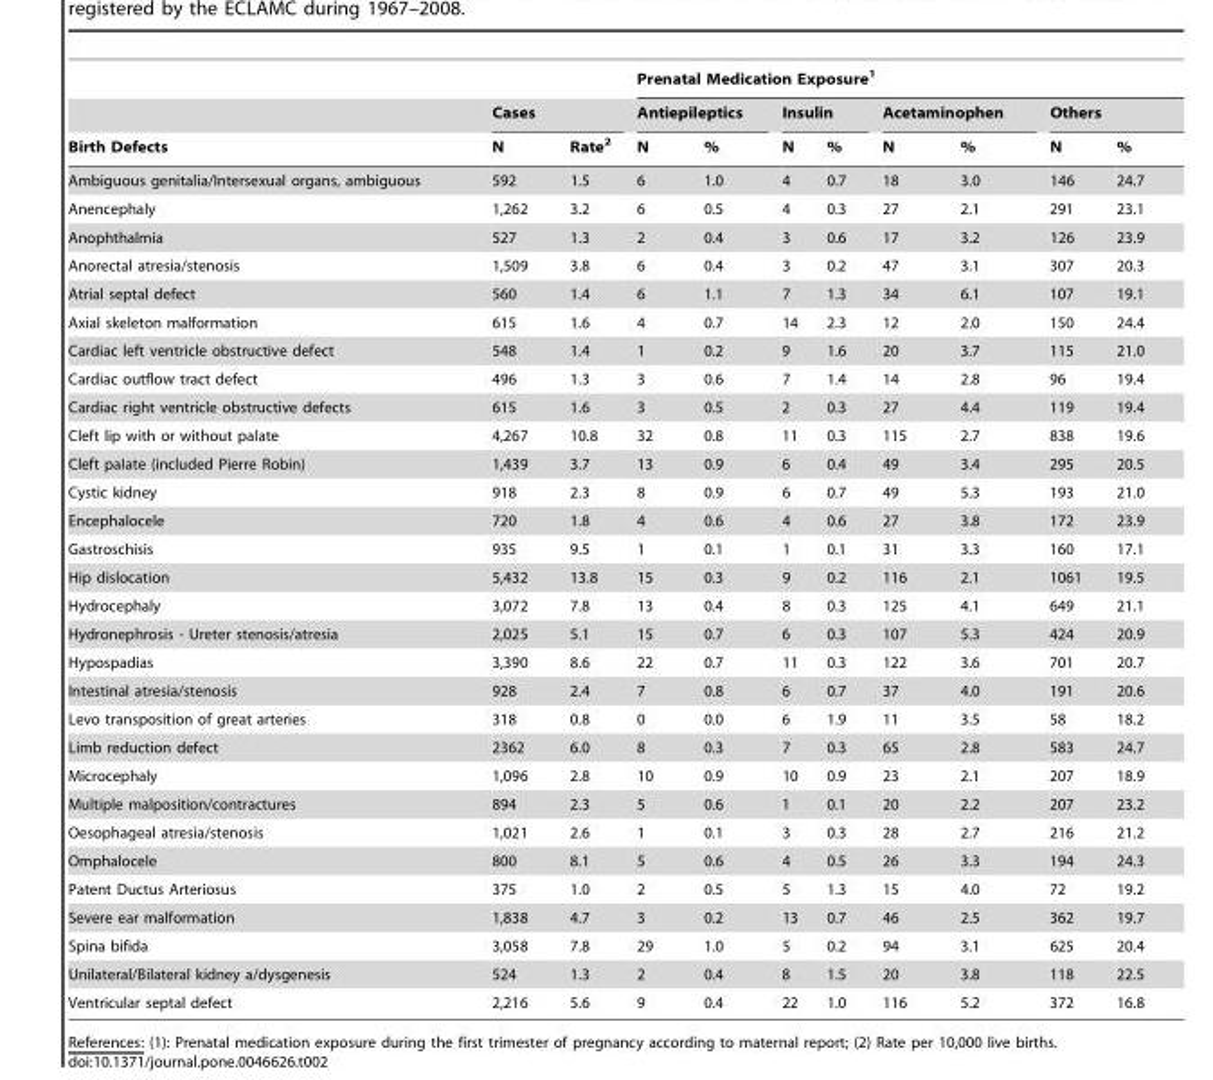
<table><thead><tr><td rowspan="3">Birth Defects</td><td></td><td></td><td colspan="8">Prenatal Medication Exposure<sup>1</sup></td></tr><tr><td colspan="2">Cases</td><td colspan="2">Antiepileptics</td><td colspan="2">Insulin</td><td colspan="2">Acetaminophen</td><td colspan="2">Others</td></tr><tr><td>N</td><td>Rate<sup>2</sup></td><td>N</td><td>%</td><td>N</td><td>%</td><td>N</td><td>%</td><td>N</td><td>%</td></tr></thead><tbody><tr><td>Ambiguous genitalia/Intersexual organs, ambiguous</td><td>592</td><td>1.5</td><td>6</td><td>1.0</td><td>4</td><td>0.7</td><td>18</td><td>3.0</td><td>146</td><td>24.7</td></tr><tr><td>Anencephaly</td><td>1,262</td><td>3.2</td><td>6</td><td>0.5</td><td>4</td><td>0.3</td><td>27</td><td>2.1</td><td>291</td><td>23.1</td></tr><tr><td>Anophthalmia</td><td>527</td><td>1.3</td><td>2</td><td>0.4</td><td>3</td><td>0.6</td><td>17</td><td>3.2</td><td>126</td><td>23.9</td></tr><tr><td>Anorectal atresia/stenosis</td><td>1,509</td><td>3.8</td><td>6</td><td>0.4</td><td>3</td><td>0.2</td><td>47</td><td>3.1</td><td>307</td><td>20.3</td></tr><tr><td>Atrial septal defect</td><td>560</td><td>1.4</td><td>6</td><td>1.1</td><td>7</td><td>1.3</td><td>34</td><td>6.1</td><td>107</td><td>19.1</td></tr><tr><td>Axial skeleton malformation</td><td>615</td><td>1.6</td><td>4</td><td>0.7</td><td>14</td><td>2.3</td><td>12</td><td>2.0</td><td>150</td><td>24.4</td></tr><tr><td>Cardiac left ventricle obstructive defect</td><td>548</td><td>1.4</td><td>1</td><td>0.2</td><td>9</td><td>1.6</td><td>20</td><td>3.7</td><td>115</td><td>21.0</td></tr><tr><td>Cardiac outflow tract defect</td><td>496</td><td>1.3</td><td>3</td><td>0.6</td><td>7</td><td>1.4</td><td>14</td><td>2.8</td><td>96</td><td>19.4</td></tr><tr><td>Cardiac right ventricle obstructive defects</td><td>615</td><td>1.6</td><td>3</td><td>0.5</td><td>2</td><td>0.3</td><td>27</td><td>4.4</td><td>119</td><td>19.4</td></tr><tr><td>Cleft lip with or without paIate</td><td>4,267</td><td>10.8</td><td>32</td><td>0.8</td><td>11</td><td>0.3</td><td>115</td><td>2.7</td><td>838</td><td>19.6</td></tr><tr><td>Cleft paIate (included Pierre Robin)</td><td>1,439</td><td>3.7</td><td>13</td><td>0.9</td><td>6</td><td>0.4</td><td>49</td><td>3.4</td><td>295</td><td>20.5</td></tr><tr><td>Cystic kidney</td><td>918</td><td>2.3</td><td>8</td><td>0.9</td><td>6</td><td>0.7</td><td>49</td><td>5.3</td><td>193</td><td>21.0</td></tr><tr><td>Encephalocele</td><td>720</td><td>1.8</td><td>4</td><td>0.6</td><td>4</td><td>0.6</td><td>27</td><td>3.8</td><td>172</td><td>23.9</td></tr><tr><td>Gastroschisis</td><td>935</td><td>9.5</td><td>1</td><td>0.1</td><td>1</td><td>0.1</td><td>31</td><td>3.3</td><td>160</td><td>17.1</td></tr><tr><td>Hip dislocation</td><td>5,432</td><td>13.8</td><td>15</td><td>0.3</td><td>9</td><td>0.2</td><td>116</td><td>2.1</td><td>1061</td><td>19.5</td></tr><tr><td>Hydrocephaly</td><td>3,072</td><td>7.8</td><td>13</td><td>0.4</td><td>8</td><td>0.3</td><td>125</td><td>4.1</td><td>649</td><td>21.1</td></tr><tr><td>Hydronephrosis - Ureter stenosis/atresia</td><td>2,025</td><td>5.1</td><td>15</td><td>0.7</td><td>6</td><td>0.3</td><td>107</td><td>5.3</td><td>424</td><td>20.9</td></tr><tr><td>Hypospadias</td><td>3,390</td><td>8.6</td><td>22</td><td>0.7</td><td>11</td><td>0.3</td><td>122</td><td>3.6</td><td>701</td><td>20.7</td></tr><tr><td>Intestinal atresia/stenosis</td><td>928</td><td>2.4</td><td>7</td><td>0.8</td><td>6</td><td>0.7</td><td>37</td><td>4.0</td><td>191</td><td>20.6</td></tr><tr><td>Levo transposition of great arteries</td><td>318</td><td>0.8</td><td>0</td><td>0.0</td><td>6</td><td>1.9</td><td>11</td><td>3.5</td><td>58</td><td>18.2</td></tr><tr><td>Limb reduction defect</td><td>2362</td><td>6.0</td><td>8</td><td>0.3</td><td>7</td><td>0.3</td><td>65</td><td>2.8</td><td>583</td><td>24.7</td></tr><tr><td>Microcephaly</td><td>1,096</td><td>2.8</td><td>10</td><td>0.9</td><td>10</td><td>0.9</td><td>23</td><td>2.1</td><td>207</td><td>18.9</td></tr><tr><td>Multiple malposition/contractures</td><td>894</td><td>2.3</td><td>5</td><td>0.6</td><td>1</td><td>0.1</td><td>20</td><td>2.2</td><td>207</td><td>23.2</td></tr><tr><td>Oesophageal atresia/stenosis</td><td>1,021</td><td>2.6</td><td>1</td><td>0.1</td><td>3</td><td>0.3</td><td>28</td><td>2.7</td><td>216</td><td>21.2</td></tr><tr><td>Omphalocele</td><td>800</td><td>8.1</td><td>5</td><td>0.6</td><td>4</td><td>0.5</td><td>26</td><td>3.3</td><td>194</td><td>24.3</td></tr><tr><td>Patent Ductus Arteriosus</td><td>375</td><td>1.0</td><td>2</td><td>0.5</td><td>5</td><td>1.3</td><td>15</td><td>4.0</td><td>72</td><td>19.2</td></tr><tr><td>Severe ear malformation</td><td>1,838</td><td>4.7</td><td>3</td><td>0.2</td><td>13</td><td>0.7</td><td>46</td><td>2.5</td><td>362</td><td>19.7</td></tr><tr><td>Spina bifida</td><td>3,058</td><td>7.8</td><td>29</td><td>1.0</td><td>5</td><td>0.2</td><td>94</td><td>3.1</td><td>625</td><td>20.4</td></tr><tr><td>Unilateral/Bilateral kidney a/dysgenesis</td><td>524</td><td>1.3</td><td>2</td><td>0.4</td><td>8</td><td>1.5</td><td>20</td><td>3.8</td><td>118</td><td>22.5</td></tr><tr><td>Ventricular septal defect</td><td>2,216</td><td>5.6</td><td>9</td><td>0.4</td><td>22</td><td>1.0</td><td>116</td><td>5.2</td><td>372</td><td>16.8</td></tr></tbody></table>